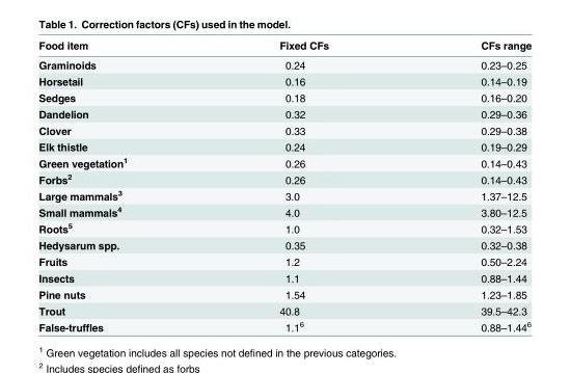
<table><thead><tr><td>Food item</td><td>Fixed CFs</td><td>CFs range</td></tr></thead><tbody><tr><td>Graminoids</td><td>0.24</td><td>0.23–0.25</td></tr><tr><td>Horsetail</td><td>0.16</td><td>0.14–0.19</td></tr><tr><td>Sedges</td><td>0.18</td><td>0.16–0.20</td></tr><tr><td>Dandelion</td><td>0.32</td><td>0.29–0.36</td></tr><tr><td>Clover</td><td>0.33</td><td>0.29–0.38</td></tr><tr><td>Elk thistle</td><td>0.24</td><td>0.19–0.29</td></tr><tr><td>Green vegetation<sup>1</sup></td><td>0.26</td><td>0.14–0.43</td></tr><tr><td>Forbs<sup>2</sup></td><td>0.26</td><td>0.14–0.43</td></tr><tr><td>Large mammals<sup>3</sup></td><td>3.0</td><td>1.37–12.5</td></tr><tr><td>Small mammals<sup>4</sup></td><td>4.0</td><td>3.80–12.5</td></tr><tr><td>Roots<sup>5</sup></td><td>1.0</td><td>0.32–1.53</td></tr><tr><td>Hedysarum spp.</td><td>0.35</td><td>0.32–0.38</td></tr><tr><td>Fruits</td><td>1.2</td><td>0.50–2.24</td></tr><tr><td>Insects</td><td>1.1</td><td>0.88–1.44</td></tr><tr><td>Pine nuts</td><td>1.54</td><td>1.23–1.85</td></tr><tr><td>Trout</td><td>40.8</td><td>39.5–42.3</td></tr><tr><td>False-truffles</td><td>1.1<sup>6</sup></td><td>0.88–1.44<sup>6</sup></td></tr></tbody></table>